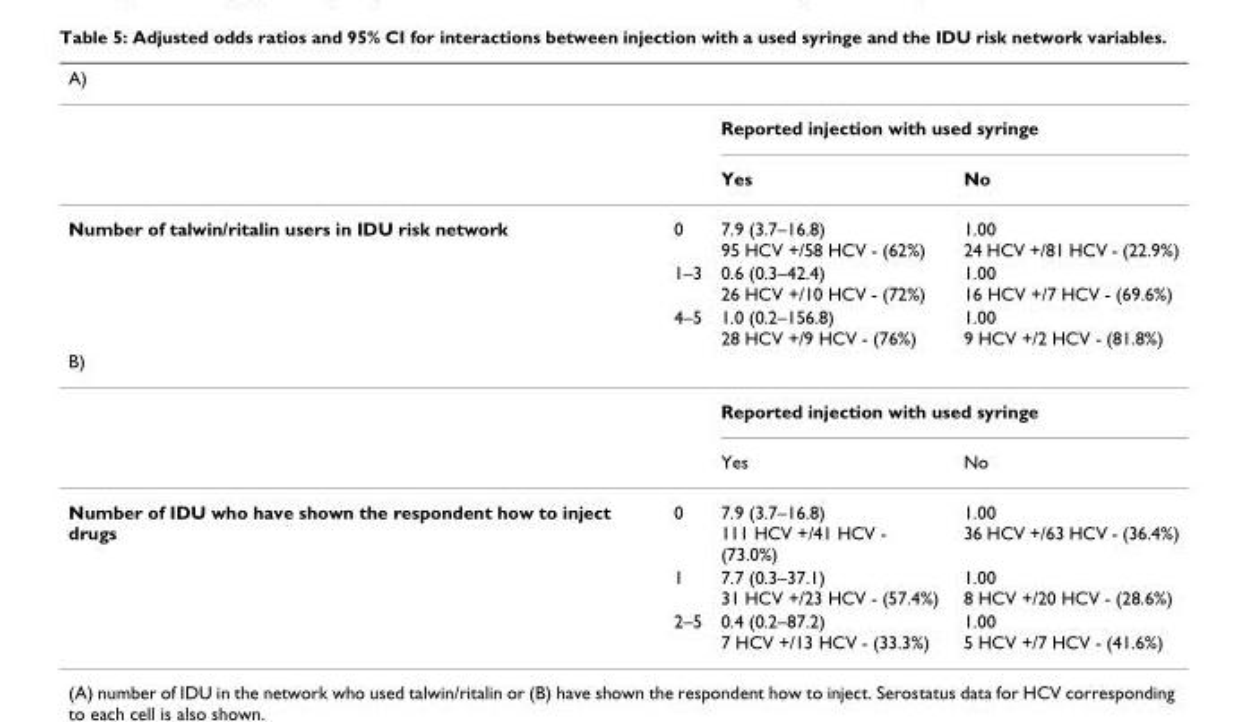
<table><thead><tr><td>A)</td><td></td><td></td><td></td></tr></thead><tbody><tr><td></td><td></td><td colspan="2">Reported injection with used syringe</td></tr><tr><td></td><td></td><td>Yes</td><td>No</td></tr><tr><td rowspan="3">Number of talwin/ritalin users in IDU risk network</td><td>0</td><td>7.9 (3.7–16.8) 95 HCV +/58 HCV - (62%)</td><td>1.00 24 HCV +/81 HCV - (22.9%)</td></tr><tr><td>1–3</td><td>0.6 (0.3–42.4) 26 HCV +/10 HCV - (72%)</td><td>1.00 16 HCV +/7 HCV - (69.6%)</td></tr><tr><td>4–5</td><td>1.0 (0.2–156.8) 28 HCV +/9 HCV - (76%)</td><td>1.00 9 HCV +/2 HCV - (81.8%)</td></tr><tr><td colspan="4">B)</td></tr><tr><td></td><td></td><td colspan="2">Reported injection with used syringe</td></tr><tr><td></td><td></td><td>Yes</td><td>No</td></tr><tr><td rowspan="3">Number of IDU who have shown the respondent how to inject drugs</td><td>0</td><td>7.9 (3.7–16.8) 111 HCV +/41 HCV - (73.0%)</td><td>1.00 36 HCV +/63 HCV - (36.4%)</td></tr><tr><td>1</td><td>7.7 (0.3–37.1) 31 HCV +/23 HCV - (57.4%)</td><td>1.00 8 HCV +/20 HCV - (28.6%)</td></tr><tr><td>2–5</td><td>0.4 (0.2–87.2) 7 HCV +/13 HCV - (33.3%)</td><td>1.00 5 HCV +/7 HCV - (41.6%)</td></tr></tbody></table>